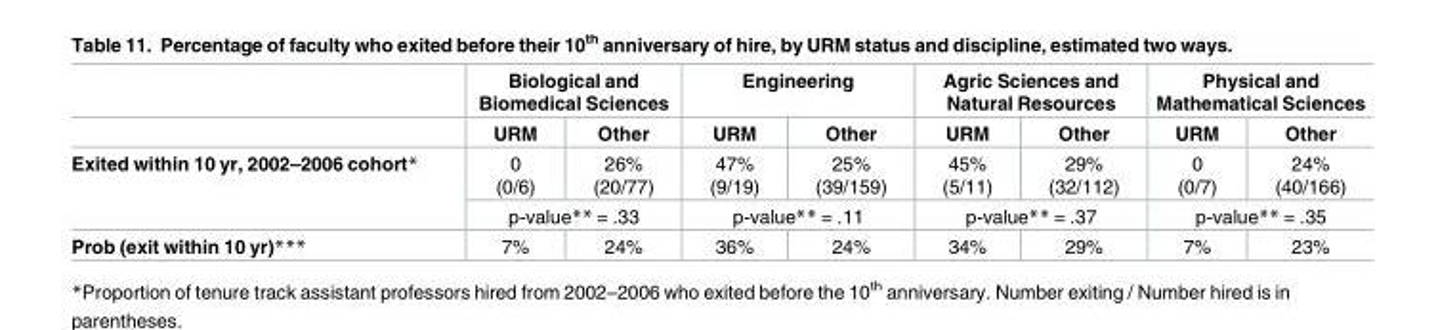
<table><thead><tr><td rowspan="2"></td><td colspan="2">Biological and Biomedical Sciences</td><td colspan="2">Engineering</td><td colspan="2">Agric Sciences and Natural Resources</td><td colspan="2">Physical and Mathematical Sciences</td></tr><tr><td>URM</td><td>Other</td><td>URM</td><td>Other</td><td>URM</td><td>Other</td><td>URM</td><td>Other</td></tr></thead><tbody><tr><td rowspan="2">Exited within 10 yr, 2002–2006 cohort*</td><td>0 (0/6)</td><td>26% (20/77)</td><td>47% (9/19)</td><td>25% (39/159)</td><td>45% (5/11)</td><td>29% (32/112)</td><td>0 (0/7)</td><td>24% (40/166)</td></tr><tr><td colspan="2">p-value** = .33</td><td colspan="2">p-value** = .11</td><td colspan="2">p-value** = .37</td><td colspan="2">p-value** = .35</td></tr><tr><td>Prob (exit within 10 yr)***</td><td>7%</td><td>24%</td><td>36%</td><td>24%</td><td>34%</td><td>29%</td><td>7%</td><td>23%</td></tr></tbody></table>